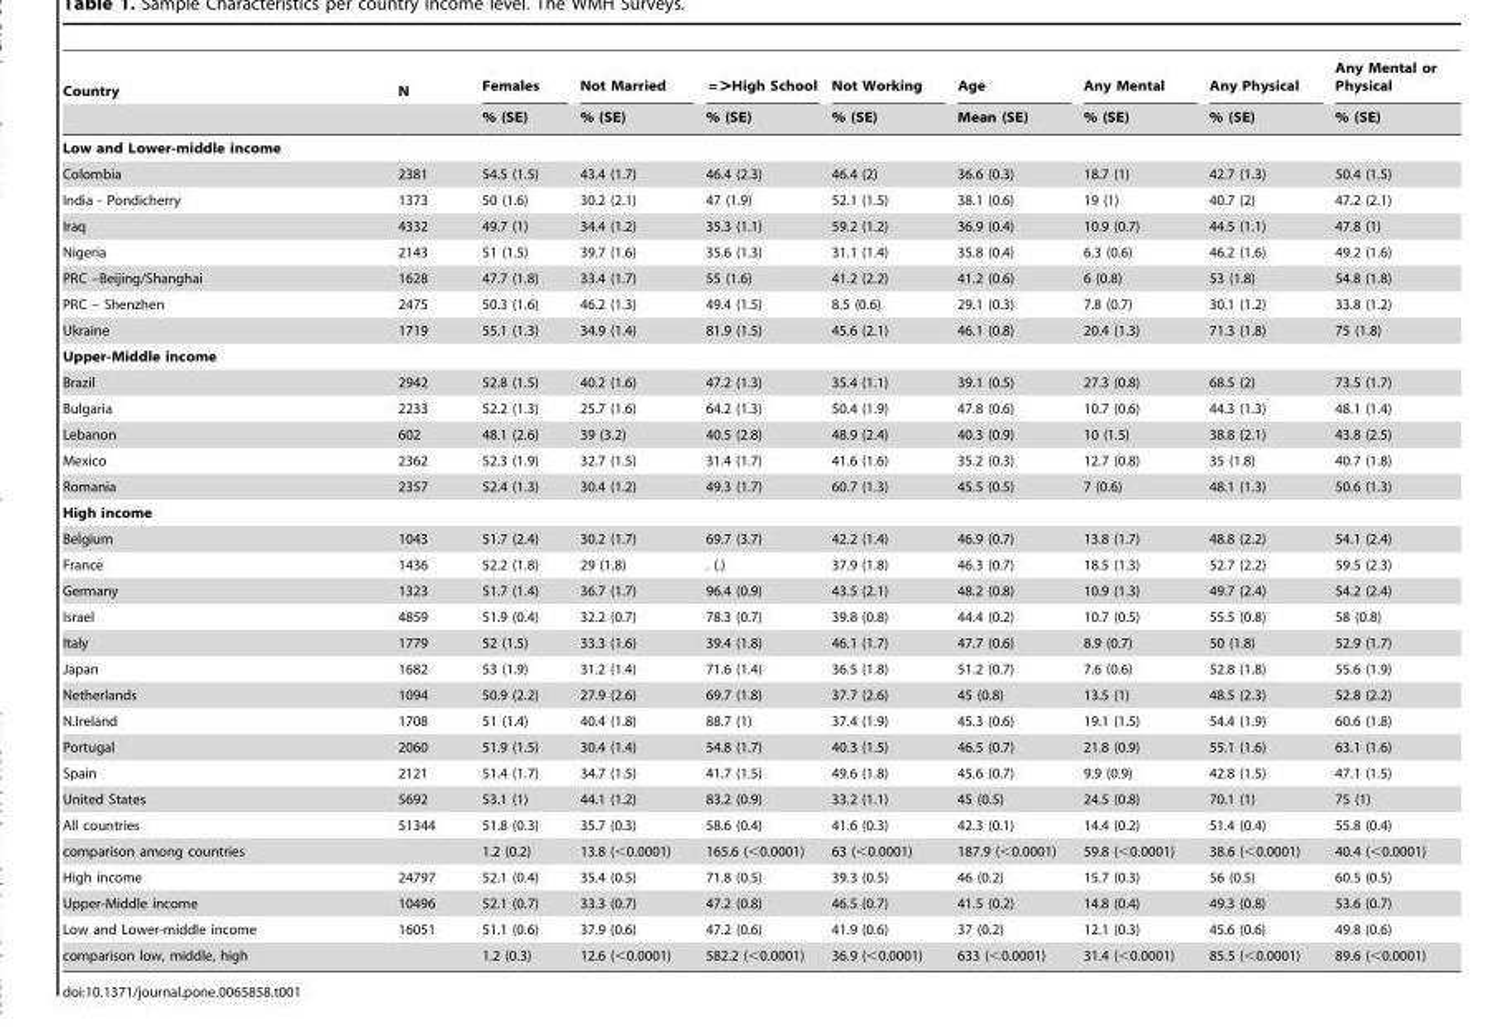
<table><thead><tr><td rowspan="2">Country</td><td rowspan="2">N</td><td rowspan="2">Females % (SE)</td><td rowspan="2">Not Married % (SE)</td><td rowspan="2">= &gt;High School % (SE)</td><td rowspan="2">Not Working % (SE)</td><td rowspan="2">Age Mean (SE)</td><td rowspan="2">Any Mental % (SE)</td><td rowspan="2">Any Physical % (SE)</td><td rowspan="2">Any Mental or Physical % (SE)</td></tr><tr></tr></thead><tbody><tr><td colspan="10">Low and Lower-middle income</td></tr><tr><td>Colombia</td><td>2381</td><td>54.5 (1.5)</td><td>43.4 (1.7)</td><td>46.4 (2.3)</td><td>46.4 (2)</td><td>36.6 (0.3)</td><td>18.7 (1)</td><td>42.7 (1.3)</td><td>50.4 (1.5)</td></tr><tr><td>India - Pondicherry</td><td>1373</td><td>50 (1.6)</td><td>30.2 (2.1)</td><td>47 (1.9)</td><td>52.1 (1.5)</td><td>38.1 (0.6)</td><td>19 (1)</td><td>40.7 (2)</td><td>47.2 (2.1)</td></tr><tr><td>Iraq</td><td>4332</td><td>49.7 (1)</td><td>34.4 (1.2)</td><td>35.3 (1.1)</td><td>59.2 (1.2)</td><td>36.9 (0.4)</td><td>10.9 (0.7)</td><td>44.5 (1.1)</td><td>47.8 (1)</td></tr><tr><td>Nigeria</td><td>2143</td><td>51 (1.5)</td><td>39.7 (1.6)</td><td>35.6 (1.3)</td><td>31.1 (1.4)</td><td>35.8 (0.4)</td><td>6.3 (0.6)</td><td>46.2 (1.6)</td><td>49.2 (1.6)</td></tr><tr><td>PRC –Beijing/Shanghai</td><td>1628</td><td>47.7 (1.8)</td><td>33.4 (1.7)</td><td>55 (1.6)</td><td>41.2 (2.2)</td><td>41.2 (0.6)</td><td>6 (0.8)</td><td>53 (1.8)</td><td>54.8 (1.8)</td></tr><tr><td>PRC – Shenzhen</td><td>2475</td><td>50.3 (1.6)</td><td>46.2 (1.3)</td><td>49.4 (1.5)</td><td>8.5 (0.6)</td><td>29.1 (0.3)</td><td>7.8 (0.7)</td><td>30.1 (1.2)</td><td>33.8 (1.2)</td></tr><tr><td>Ukraine</td><td>1719</td><td>55.1 (1.3)</td><td>34.9 (1.4)</td><td>81.9 (1.5)</td><td>45.6 (2.1)</td><td>46.1 (0.8)</td><td>20.4 (1.3)</td><td>71.3 (1.8)</td><td>75 (1.8)</td></tr><tr><td colspan="10">Upper-Middle income</td></tr><tr><td>Brazil</td><td>2942</td><td>52.8 (1.5)</td><td>40.2 (1.6)</td><td>47.2 (1.3)</td><td>35.4 (1.1)</td><td>39.1 (0.5)</td><td>27.3 (0.8)</td><td>68.5 (2)</td><td>73.5 (1.7)</td></tr><tr><td>Bulgaria</td><td>2233</td><td>52.2 (1.3)</td><td>25.7 (1.6)</td><td>64.2 (1.3)</td><td>50.4 (1.9)</td><td>47.8 (0.6)</td><td>10.7 (0.6)</td><td>44.3 (1.3)</td><td>48.1 (1.4)</td></tr><tr><td>Lebanon</td><td>602</td><td>48.1 (2.6)</td><td>39 (3.2)</td><td>40.5 (2.8)</td><td>48.9 (2.4)</td><td>40.3 (0.9)</td><td>10 (1.5)</td><td>38.8 (2.1)</td><td>43.8 (2.5)</td></tr><tr><td>Mexico</td><td>2362</td><td>52.3 (1.9)</td><td>32.7 (1.5)</td><td>31.4 (1.7)</td><td>41.6 (1.6)</td><td>35.2 (0.3)</td><td>12.7 (0.8)</td><td>35 (1.8)</td><td>40.7 (1.8)</td></tr><tr><td>Romania</td><td>2357</td><td>52.4 (1.3)</td><td>30.4 (1.2)</td><td>49.3 (1.7)</td><td>60.7 (1.3)</td><td>45.5 (0.5)</td><td>7 (0.6)</td><td>48.1 (1.3)</td><td>50.6 (1.3)</td></tr><tr><td colspan="10">High income</td></tr><tr><td>Belgium</td><td>1043</td><td>51.7 (2.4)</td><td>30.2 (1.7)</td><td>69.7 (3.7)</td><td>42.2 (1.4)</td><td>46.9 (0.7)</td><td>13.8 (1.7)</td><td>48.8 (2.2)</td><td>54.1 (2.4)</td></tr><tr><td>France</td><td>1436</td><td>52.2 (1.8)</td><td>29 (1.8)</td><td>. (.)</td><td>37.9 (1.8)</td><td>46.3 (0.7)</td><td>18.5 (1.3)</td><td>52.7 (2.2)</td><td>59.5 (2.3)</td></tr><tr><td>Germany</td><td>1323</td><td>51.7 (1.4)</td><td>36.7 (1.7)</td><td>96.4 (0.9)</td><td>43.5 (2.1)</td><td>48.2 (0.8)</td><td>10.9 (1.3)</td><td>49.7 (2.4)</td><td>54.2 (2.4)</td></tr><tr><td>Israel</td><td>4859</td><td>51.9 (0.4)</td><td>32.2 (0.7)</td><td>78.3 (0.7)</td><td>39.8 (0.8)</td><td>44.4 (0.2)</td><td>10.7 (0.5)</td><td>55.5 (0.8)</td><td>58 (0.8)</td></tr><tr><td>Italy</td><td>1779</td><td>52 (1.5)</td><td>33.3 (1.6)</td><td>39.4 (1.8)</td><td>46.1 (1.7)</td><td>47.7 (0.6)</td><td>8.9 (0.7)</td><td>50 (1.8)</td><td>52.9 (1.7)</td></tr><tr><td>Japan</td><td>1682</td><td>53 (1.9)</td><td>31.2 (1.4)</td><td>71.6 (1.4)</td><td>36.5 (1.8)</td><td>51.2 (0.7)</td><td>7.6 (0.6)</td><td>52.8 (1.8)</td><td>55.6 (1.9)</td></tr><tr><td>Netherlands</td><td>1094</td><td>50.9 (2.2)</td><td>27.9 (2.6)</td><td>69.7 (1.8)</td><td>37.7 (2.6)</td><td>45 (0.8)</td><td>13.5 (1)</td><td>48.5 (2.3)</td><td>52.8 (2.2)</td></tr><tr><td>N.Ireland</td><td>1708</td><td>51 (1.4)</td><td>40.4 (1.8)</td><td>88.7 (1)</td><td>37.4 (1.9)</td><td>45.3 (0.6)</td><td>19.1 (1.5)</td><td>54.4 (1.9)</td><td>60.6 (1.8)</td></tr><tr><td>Portugal</td><td>2060</td><td>51.9 (1.5)</td><td>30.4 (1.4)</td><td>54.8 (1.7)</td><td>40.3 (1.5)</td><td>46.5 (0.7)</td><td>21.8 (0.9)</td><td>55.1 (1.6)</td><td>63.1 (1.6)</td></tr><tr><td>Spain</td><td>2121</td><td>51.4 (1.7)</td><td>34.7 (1.5)</td><td>41.7 (1.5)</td><td>49.6 (1.8)</td><td>45.6 (0.7)</td><td>9.9 (0.9)</td><td>42.8 (1.5)</td><td>47.1 (1.5)</td></tr><tr><td>United States</td><td>5692</td><td>53.1 (1)</td><td>44.1 (1.2)</td><td>83.2 (0.9)</td><td>33.2 (1.1)</td><td>45 (0.5)</td><td>24.5 (0.8)</td><td>70.1 (1)</td><td>75 (1)</td></tr><tr><td>All countries</td><td>51344</td><td>51.8 (0.3)</td><td>35.7 (0.3)</td><td>58.6 (0.4)</td><td>41.6 (0.3)</td><td>42.3 (0.1)</td><td>14.4 (0.2)</td><td>51.4 (0.4)</td><td>55.8 (0.4)</td></tr><tr><td>comparison among countries</td><td></td><td>1.2 (0.2)</td><td>13.8 (&lt;0.0001)</td><td>165.6 (&lt;0.0001)</td><td>63 (&lt;0.0001)</td><td>187.9 (&lt;0.0001)</td><td>59.8 (&lt;0.0001)</td><td>38.6 (&lt;0.0001)</td><td>40.4 (&lt;0.0001)</td></tr><tr><td>High income</td><td>24797</td><td>52.1 (0.4)</td><td>35.4 (0.5)</td><td>71.8 (0.5)</td><td>39.3 (0.5)</td><td>46 (0.2)</td><td>15.7 (0.3)</td><td>56 (0.5)</td><td>60.5 (0.5)</td></tr><tr><td>Upper-Middle income</td><td>10496</td><td>52.1 (0.7)</td><td>33.3 (0.7)</td><td>47.2 (0.8)</td><td>46.5 (0.7)</td><td>41.5 (0.2)</td><td>14.8 (0.4)</td><td>49.3 (0.8)</td><td>53.6 (0.7)</td></tr><tr><td>Low and Lower-middle income</td><td>16051</td><td>51.1 (0.6)</td><td>37.9 (0.6)</td><td>47.2 (0.6)</td><td>41.9 (0.6)</td><td>37 (0.2)</td><td>12.1 (0.3)</td><td>45.6 (0.6)</td><td>49.8 (0.6)</td></tr><tr><td>comparison low, middle, high</td><td></td><td>1.2 (0.3)</td><td>12.6 (&lt;0.0001)</td><td>582.2 (&lt;0.0001)</td><td>36.9 (&lt;0.0001)</td><td>633 (&lt;0.0001)</td><td>31.4 (&lt;0.0001)</td><td>85.5 (&lt;0.0001)</td><td>89.6 (&lt;0.0001)</td></tr></tbody></table>